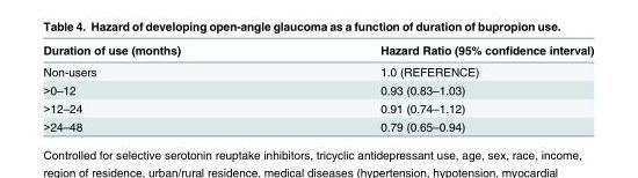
<table><thead><tr><td>Duration of use (months)</td><td>Hazard Ratio (95% confidence interval)</td></tr></thead><tbody><tr><td>Non-users</td><td>1.0 (REFERENCE)</td></tr><tr><td>&gt;0–12</td><td>0.93 (0.83–1.03)</td></tr><tr><td>&gt;12–24</td><td>0.91 (0.74–1.12)</td></tr><tr><td>&gt;24–48</td><td>0.79 (0.65–0.94)</td></tr></tbody></table>